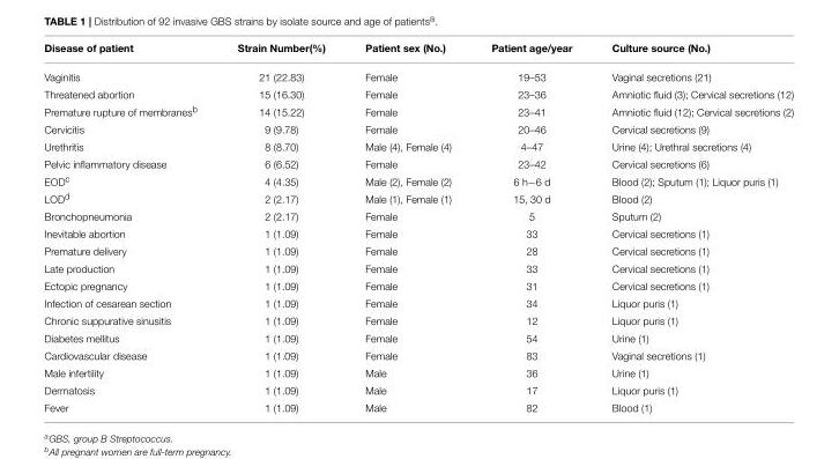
<table><thead><tr><td>Disease of patient</td><td>Strain Number(%)</td><td>Patient sex (No.)</td><td>Patient age/year</td><td>Culture source (No.)</td></tr></thead><tbody><tr><td>Vaginitis</td><td>21 (22.83)</td><td>Female</td><td>19–53</td><td>Vaginal secretions (21)</td></tr><tr><td>Threatened abortion</td><td>15 (16.30)</td><td>Female</td><td>23–36</td><td>Amniotic fluid (3); Cervical secretions (12)</td></tr><tr><td>Premature rupture of membranes<sup>b</sup></td><td>14 (15.22)</td><td>Female</td><td>23–41</td><td>Amniotic fluid (12); Cervical secretions (2)</td></tr><tr><td>Cervicitis</td><td>9 (9.78)</td><td>Female</td><td>20–46</td><td>Cervical secretions (9)</td></tr><tr><td>Urethritis</td><td>8 (8.70)</td><td>Male (4), Female (4)</td><td>4–47</td><td>Urine (4); Urethral secretions (4)</td></tr><tr><td>Pelvic inflammatory disease</td><td>6 (6.52)</td><td>Female</td><td>23–42</td><td>Cervical secretions (6)</td></tr><tr><td>EOD<sup>c</sup></td><td>4 (4.35)</td><td>Male (2), Female (2)</td><td>6 h−6 d</td><td>Blood (2); Sputum (1); Liquor puris (1)</td></tr><tr><td>LOD<sup>d</sup></td><td>2 (2.17)</td><td>Male (1), Female (1)</td><td>15, 30 d</td><td>Blood (2)</td></tr><tr><td>Bronchopneumonia</td><td>2 (2.17)</td><td>Female</td><td>5</td><td>Sputum (2)</td></tr><tr><td>Inevitable abortion</td><td>1 (1.09)</td><td>Female</td><td>33</td><td>Cervical secretions (1)</td></tr><tr><td>Premature delivery</td><td>1 (1.09)</td><td>Female</td><td>28</td><td>Cervical secretions (1)</td></tr><tr><td>Late production</td><td>1 (1.09)</td><td>Female</td><td>33</td><td>Cervical secretions (1)</td></tr><tr><td>Ectopic pregnancy</td><td>1 (1.09)</td><td>Female</td><td>31</td><td>Cervical secretions (1)</td></tr><tr><td>Infection of cesarean section</td><td>1 (1.09)</td><td>Female</td><td>34</td><td>Liquor puris (1)</td></tr><tr><td>Chronic suppurative sinusitis</td><td>1 (1.09)</td><td>Female</td><td>12</td><td>Liquor puris (1)</td></tr><tr><td>Diabetes mellitus</td><td>1 (1.09)</td><td>Female</td><td>54</td><td>Urine (1)</td></tr><tr><td>Cardiovascular disease</td><td>1 (1.09)</td><td>Female</td><td>83</td><td>Vaginal secretions (1)</td></tr><tr><td>Male infertility</td><td>1 (1.09)</td><td>Male</td><td>36</td><td>Urine (1)</td></tr><tr><td>Dermatosis</td><td>1 (1.09)</td><td>Male</td><td>17</td><td>Liquor puris (1)</td></tr><tr><td>Fever</td><td>1 (1.09)</td><td>Male</td><td>82</td><td>Blood (1)</td></tr></tbody></table>